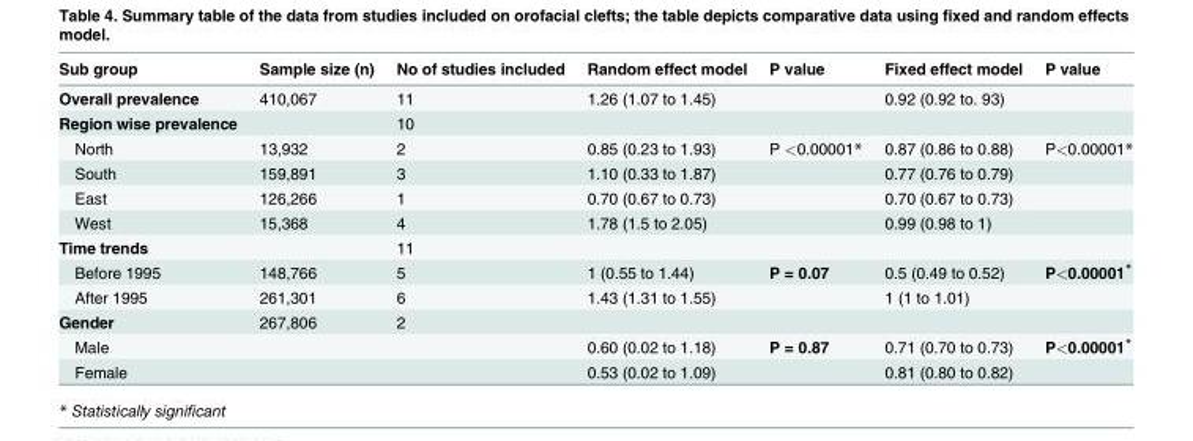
<table><thead><tr><td>Sub group</td><td>Sample size (n)</td><td>No of studies included</td><td>Random effect model</td><td>P value</td><td>Fixed effect model</td><td>P value</td></tr></thead><tbody><tr><td>Overall prevalence</td><td>410,067</td><td>11</td><td>1.26 (1.07 to 1.45)</td><td></td><td>0.92 (0.92 to. 93)</td><td></td></tr><tr><td>Region wise prevalence</td><td></td><td>10</td><td></td><td></td><td></td><td></td></tr><tr><td>North</td><td>13,932</td><td>2</td><td>0.85 (0.23 to 1.93)</td><td>P &lt;0.00001*</td><td>0.87 (0.86 to 0.88)</td><td>P&lt;0.00001*</td></tr><tr><td>South</td><td>159,891</td><td>3</td><td>1.10 (0.33 to 1.87)</td><td></td><td>0.77 (0.76 to 0.79)</td><td></td></tr><tr><td>East</td><td>126,266</td><td>1</td><td>0.70 (0.67 to 0.73)</td><td></td><td>0.70 (0.67 to 0.73)</td><td></td></tr><tr><td>West</td><td>15,368</td><td>4</td><td>1.78 (1.5 to 2.05)</td><td></td><td>0.99 (0.98 to 1)</td><td></td></tr><tr><td>Time trends</td><td></td><td>11</td><td></td><td></td><td></td><td></td></tr><tr><td>Before 1995</td><td>148,766</td><td>5</td><td>1 (0.55 to 1.44)</td><td>P = 0.07</td><td>0.5 (0.49 to 0.52)</td><td>P&lt;0.00001*</td></tr><tr><td>After 1995</td><td>261,301</td><td>6</td><td>1.43 (1.31 to 1.55)</td><td></td><td>1 (1 to 1.01)</td><td></td></tr><tr><td>Gender</td><td>267,806</td><td>2</td><td></td><td></td><td></td><td></td></tr><tr><td>Male</td><td></td><td></td><td>0.60 (0.02 to 1.18)</td><td>P = 0.87</td><td>0.71 (0.70 to 0.73)</td><td>P&lt;0.00001*</td></tr><tr><td>Female</td><td></td><td></td><td>0.53 (0.02 to 1.09)</td><td></td><td>0.81 (0.80 to 0.82)</td><td></td></tr></tbody></table>